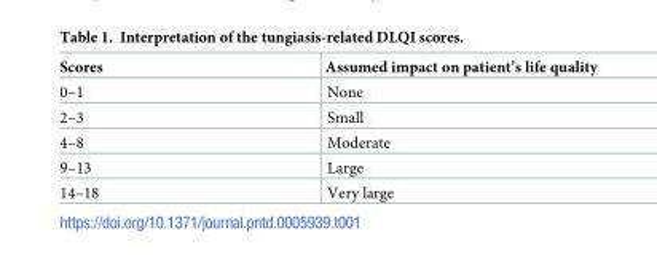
<table><thead><tr><td>Scores</td><td>Assumed impact on patient’s life quality</td></tr></thead><tbody><tr><td>0–1</td><td>None</td></tr><tr><td>2–3</td><td>Small</td></tr><tr><td>4–8</td><td>Moderate</td></tr><tr><td>9–13</td><td>Large</td></tr><tr><td>14–18</td><td>Very large</td></tr></tbody></table>